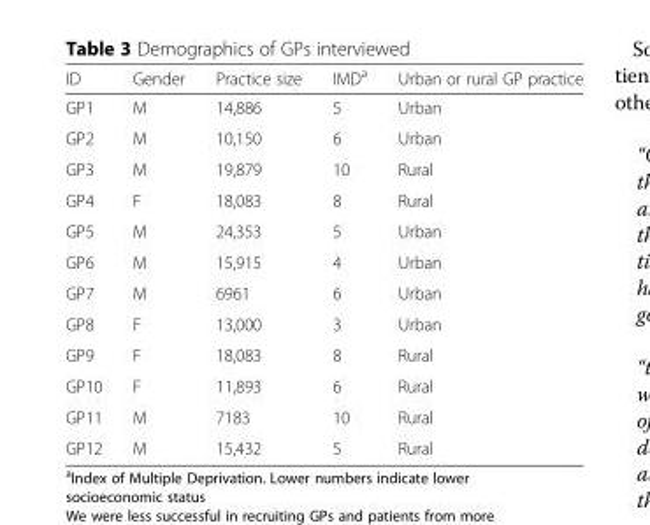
<table><thead><tr><td>ID</td><td>Gender</td><td>Practice size</td><td>IMD<sup>a</sup></td><td>Urban or rural GP practice</td></tr></thead><tbody><tr><td>GP1</td><td>M</td><td>14,886</td><td>5</td><td>Urban</td></tr><tr><td>GP2</td><td>M</td><td>10,150</td><td>6</td><td>Urban</td></tr><tr><td>GP3</td><td>M</td><td>19,879</td><td>10</td><td>Rural</td></tr><tr><td>GP4</td><td>F</td><td>18,083</td><td>8</td><td>Rural</td></tr><tr><td>GP5</td><td>M</td><td>24,353</td><td>5</td><td>Urban</td></tr><tr><td>GP6</td><td>M</td><td>15,915</td><td>4</td><td>Urban</td></tr><tr><td>GP7</td><td>M</td><td>6961</td><td>6</td><td>Urban</td></tr><tr><td>GP8</td><td>F</td><td>13,000</td><td>3</td><td>Urban</td></tr><tr><td>GP9</td><td>F</td><td>18,083</td><td>8</td><td>Rural</td></tr><tr><td>GP10</td><td>F</td><td>11,893</td><td>6</td><td>Rural</td></tr><tr><td>GP11</td><td>M</td><td>7183</td><td>10</td><td>Rural</td></tr><tr><td>GP12</td><td>M</td><td>15,432</td><td>5</td><td>Rural</td></tr></tbody></table>